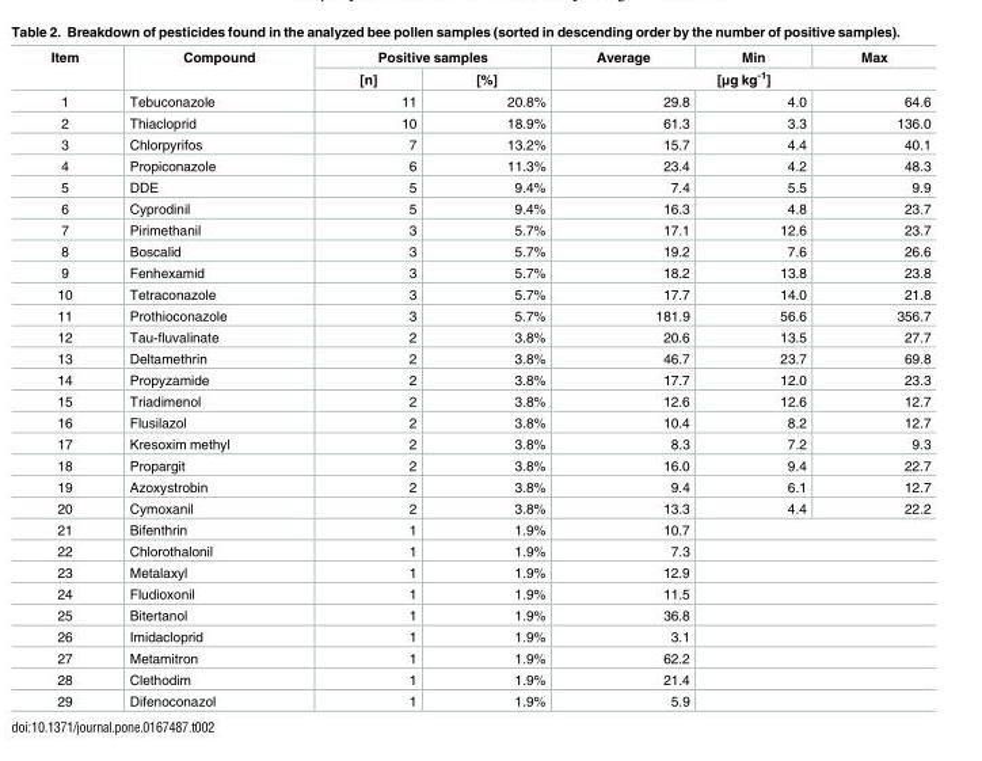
<table><thead><tr><td rowspan="2">Item</td><td rowspan="2">Compound</td><td colspan="2">Positive samples</td><td>Average</td><td>Min</td><td>Max</td></tr><tr><td>[n]</td><td>[%]</td><td colspan="3">[μg kg<sup>-1</sup>]</td></tr></thead><tbody><tr><td>1</td><td>Tebuconazole</td><td>11</td><td>20.8%</td><td>29.8</td><td>4.0</td><td>64.6</td></tr><tr><td>2</td><td>Thiacloprid</td><td>10</td><td>18.9%</td><td>61.3</td><td>3.3</td><td>136.0</td></tr><tr><td>3</td><td>Chlorpyrifos</td><td>7</td><td>13.2%</td><td>15.7</td><td>4.4</td><td>40.1</td></tr><tr><td>4</td><td>Propiconazole</td><td>6</td><td>11.3%</td><td>23.4</td><td>4.2</td><td>48.3</td></tr><tr><td>5</td><td>DDE</td><td>5</td><td>9.4%</td><td>7.4</td><td>5.5</td><td>9.9</td></tr><tr><td>6</td><td>Cyprodinil</td><td>5</td><td>9.4%</td><td>16.3</td><td>4.8</td><td>23.7</td></tr><tr><td>7</td><td>Pirimethanil</td><td>3</td><td>5.7%</td><td>17.1</td><td>12.6</td><td>23.7</td></tr><tr><td>8</td><td>Boscalid</td><td>3</td><td>5.7%</td><td>19.2</td><td>7.6</td><td>26.6</td></tr><tr><td>9</td><td>Fenhexamid</td><td>3</td><td>5.7%</td><td>18.2</td><td>13.8</td><td>23.8</td></tr><tr><td>10</td><td>Tetraconazole</td><td>3</td><td>5.7%</td><td>17.7</td><td>14.0</td><td>21.8</td></tr><tr><td>11</td><td>Prothioconazole</td><td>3</td><td>5.7%</td><td>181.9</td><td>56.6</td><td>356.7</td></tr><tr><td>12</td><td>Tau-fluvalinate</td><td>2</td><td>3.8%</td><td>20.6</td><td>13.5</td><td>27.7</td></tr><tr><td>13</td><td>Deltamethrin</td><td>2</td><td>3.8%</td><td>46.7</td><td>23.7</td><td>69.8</td></tr><tr><td>14</td><td>Propyzamide</td><td>2</td><td>3.8%</td><td>17.7</td><td>12.0</td><td>23.3</td></tr><tr><td>15</td><td>Triadimenol</td><td>2</td><td>3.8%</td><td>12.6</td><td>12.6</td><td>12.7</td></tr><tr><td>16</td><td>Flusilazol</td><td>2</td><td>3.8%</td><td>10.4</td><td>8.2</td><td>12.7</td></tr><tr><td>17</td><td>Kresoxim methyl</td><td>2</td><td>3.8%</td><td>8.3</td><td>7.2</td><td>9.3</td></tr><tr><td>18</td><td>Propargit</td><td>2</td><td>3.8%</td><td>16.0</td><td>9.4</td><td>22.7</td></tr><tr><td>19</td><td>Azoxystrobin</td><td>2</td><td>3.8%</td><td>9.4</td><td>6.1</td><td>12.7</td></tr><tr><td>20</td><td>Cymoxanil</td><td>2</td><td>3.8%</td><td>13.3</td><td>4.4</td><td>22.2</td></tr><tr><td>21</td><td>Bifenthrin</td><td>1</td><td>1.9%</td><td>10.7</td><td colspan="2"></td></tr><tr><td>22</td><td>Chlorothalonil</td><td>1</td><td>1.9%</td><td>7.3</td><td colspan="2"></td></tr><tr><td>23</td><td>Metalaxyl</td><td>1</td><td>1.9%</td><td>12.9</td><td colspan="2"></td></tr><tr><td>24</td><td>Fludioxonil</td><td>1</td><td>1.9%</td><td>11.5</td><td colspan="2"></td></tr><tr><td>25</td><td>Bitertanol</td><td>1</td><td>1.9%</td><td>36.8</td><td colspan="2"></td></tr><tr><td>26</td><td>Imidacloprid</td><td>1</td><td>1.9%</td><td>3.1</td><td colspan="2"></td></tr><tr><td>27</td><td>Metamitron</td><td>1</td><td>1.9%</td><td>62.2</td><td colspan="2"></td></tr><tr><td>28</td><td>Clethodim</td><td>1</td><td>1.9%</td><td>21.4</td><td colspan="2"></td></tr><tr><td>29</td><td>Difenoconazol</td><td>1</td><td>1.9%</td><td>5.9</td><td colspan="2"></td></tr></tbody></table>